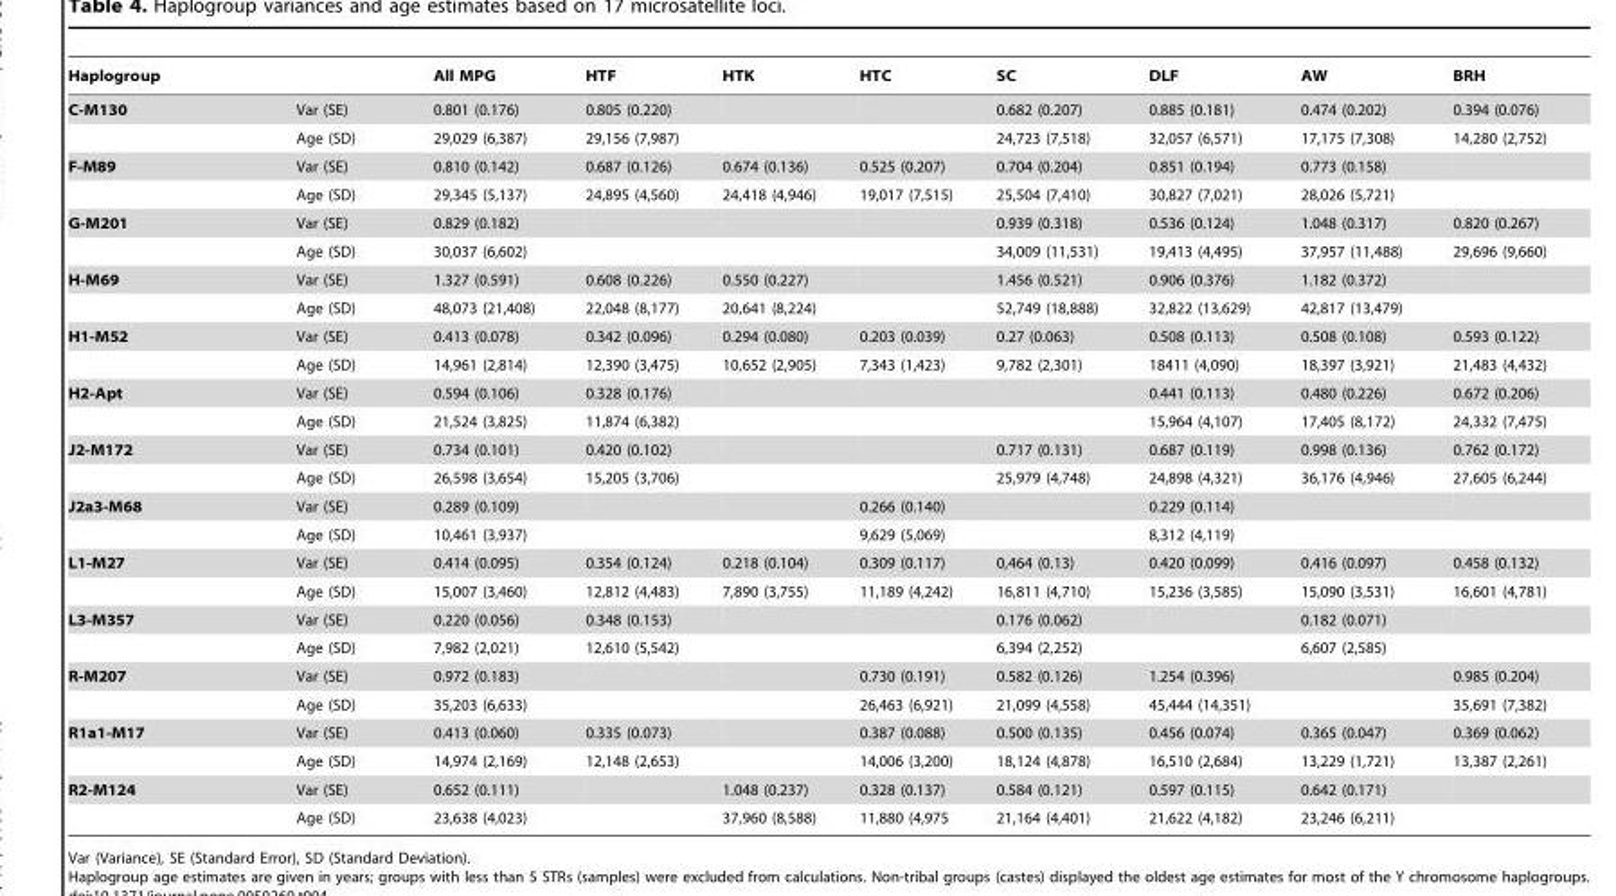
<table><thead><tr><td>Haplogroup</td><td></td><td>All MPG</td><td>HTF</td><td>HTK</td><td>HTC</td><td>SC</td><td>DLF</td><td>AW</td><td>BRH</td></tr></thead><tbody><tr><td rowspan="2">C-M130</td><td>Var (SE)</td><td>0.801 (0.176)</td><td>0.805 (0.220)</td><td></td><td></td><td>0.682 (0.207)</td><td>0.885 (0.181)</td><td>0.474 (0.202)</td><td>0.394 (0.076)</td></tr><tr><td>Age (SD)</td><td>29,029 (6,387)</td><td>29,156 (7,987)</td><td></td><td></td><td>24,723 (7,518)</td><td>32,057 (6,571)</td><td>17,175 (7,308)</td><td>14,280 (2,752)</td></tr><tr><td rowspan="2">F-M89</td><td>Var (SE)</td><td>0.810 (0.142)</td><td>0.687 (0.126)</td><td>0.674 (0.136)</td><td>0.525 (0.207)</td><td>0.704 (0.204)</td><td>0.851 (0.194)</td><td>0.773 (0.158)</td><td></td></tr><tr><td>Age (SD)</td><td>29,345 (5,137)</td><td>24,895 (4,560)</td><td>24,418 (4,946)</td><td>19,017 (7,515)</td><td>25,504 (7,410)</td><td>30,827 (7,021)</td><td>28,026 (5,721)</td><td></td></tr><tr><td rowspan="2">G-M201</td><td>Var (SE)</td><td>0.829 (0.182)</td><td></td><td></td><td></td><td>0.939 (0.318)</td><td>0.536 (0.124)</td><td>1.048 (0.317)</td><td>0.820 (0.267)</td></tr><tr><td>Age (SD)</td><td>30,037 (6,602)</td><td></td><td></td><td></td><td>34,009 (11,531)</td><td>19,413 (4,495)</td><td>37,957 (11,488)</td><td>29,696 (9,660)</td></tr><tr><td rowspan="2">H-M69</td><td>Var (SE)</td><td>1.327 (0.591)</td><td>0.608 (0.226)</td><td>0.550 (0.227)</td><td></td><td>1.456 (0.521)</td><td>0.906 (0.376)</td><td>1.182 (0.372)</td><td></td></tr><tr><td>Age (SD)</td><td>48,073 (21,408)</td><td>22,048 (8,177)</td><td>20,641 (8,224)</td><td></td><td>52,749 (18,888)</td><td>32,822 (13,629)</td><td>42,817 (13,479)</td><td></td></tr><tr><td rowspan="2">H1-M52</td><td>Var (SE)</td><td>0.413 (0.078)</td><td>0.342 (0.096)</td><td>0.294 (0.080)</td><td>0.203 (0.039)</td><td>0.27 (0.063)</td><td>0.508 (0.113)</td><td>0.508 (0.108)</td><td>0.593 (0.122)</td></tr><tr><td>Age (SD)</td><td>14,961 (2,814)</td><td>12,390 (3,475)</td><td>10,652 (2,905)</td><td>7,343 (1,423)</td><td>9,782 (2,301)</td><td>18411 (4,090)</td><td>18,397 (3,921)</td><td>21,483 (4,432)</td></tr><tr><td rowspan="2">H2-Apt</td><td>Var (SE)</td><td>0.594 (0.106)</td><td>0.328 (0.176)</td><td></td><td></td><td></td><td>0.441 (0.113)</td><td>0.480 (0.226)</td><td>0.672 (0.206)</td></tr><tr><td>Age (SD)</td><td>21,524 (3,825)</td><td>11,874 (6,382)</td><td></td><td></td><td></td><td>15,964 (4,107)</td><td>17,405 (8,172)</td><td>24,332 (7,475)</td></tr><tr><td rowspan="2">J2-M172</td><td>Var (SE)</td><td>0.734 (0.101)</td><td>0.420 (0.102)</td><td></td><td></td><td>0.717 (0.131)</td><td>0.687 (0.119)</td><td>0.998 (0.136)</td><td>0.762 (0.172)</td></tr><tr><td>Age (SD)</td><td>26,598 (3,654)</td><td>15,205 (3,706)</td><td></td><td></td><td>25,979 (4,748)</td><td>24,898 (4,321)</td><td>36,176 (4,946)</td><td>27,605 (6,244)</td></tr><tr><td rowspan="2">J2a3-M68</td><td>Var (SE)</td><td>0.289 (0.109)</td><td></td><td></td><td>0.266 (0.140)</td><td></td><td>0.229 (0.114)</td><td></td><td></td></tr><tr><td>Age (SD)</td><td>10,461 (3,937)</td><td></td><td></td><td>9,629 (5,069)</td><td></td><td>8,312 (4,119)</td><td></td><td></td></tr><tr><td rowspan="2">L1-M27</td><td>Var (SE)</td><td>0.414 (0.095)</td><td>0.354 (0.124)</td><td>0.218 (0.104)</td><td>0.309 (0.117)</td><td>0,464 (0.13)</td><td>0.420 (0.099)</td><td>0.416 (0.097)</td><td>0.458 (0.132)</td></tr><tr><td>Age (SD)</td><td>15,007 (3,460)</td><td>12,812 (4,483)</td><td>7,890 (3,755)</td><td>11,189 (4,242)</td><td>16,811 (4,710)</td><td>15,236 (3,585)</td><td>15,090 (3,531)</td><td>16,601 (4,781)</td></tr><tr><td rowspan="2">L3-M357</td><td>Var (SE)</td><td>0.220 (0.056)</td><td>0.348 (0.153)</td><td></td><td></td><td>0.176 (0.062)</td><td></td><td>0.182 (0.071)</td><td></td></tr><tr><td>Age (SD)</td><td>7,982 (2,021)</td><td>12,610 (5,542)</td><td></td><td></td><td>6,394 (2,252)</td><td></td><td>6,607 (2,585)</td><td></td></tr><tr><td rowspan="2">R-M207</td><td>Var (SE)</td><td>0.972 (0.183)</td><td></td><td></td><td>0.730 (0.191)</td><td>0.582 (0.126)</td><td>1.254 (0.396)</td><td></td><td>0.985 (0.204)</td></tr><tr><td>Age (SD)</td><td>35,203 (6,633)</td><td></td><td></td><td>26,463 (6,921)</td><td>21,099 (4,558)</td><td>45,444 (14,351)</td><td></td><td>35,691 (7,382)</td></tr><tr><td rowspan="2">R1a1-M17</td><td>Var (SE)</td><td>0.413 (0.060)</td><td>0.335 (0.073)</td><td></td><td>0.387 (0.088)</td><td>0.500 (0.135)</td><td>0.456 (0.074)</td><td>0.365 (0.047)</td><td>0.369 (0.062)</td></tr><tr><td>Age (SD)</td><td>14,974 (2,169)</td><td>12,148 (2,653)</td><td></td><td>14,006 (3,200)</td><td>18,124 (4,878)</td><td>16,510 (2,684)</td><td>13,229 (1,721)</td><td>13,387 (2,261)</td></tr><tr><td rowspan="2">R2-M124</td><td>Var (SE)</td><td>0.652 (0.111)</td><td></td><td>1.048 (0.237)</td><td>0.328 (0.137)</td><td>0.584 (0.121)</td><td>0.597 (0.115)</td><td>0.642 (0.171)</td><td></td></tr><tr><td>Age (SD)</td><td>23,638 (4,023)</td><td></td><td>37,960 (8,588)</td><td>11,880 (4,975</td><td>21,164 (4,401)</td><td>21,622 (4,182)</td><td>23,246 (6,211)</td><td></td></tr></tbody></table>